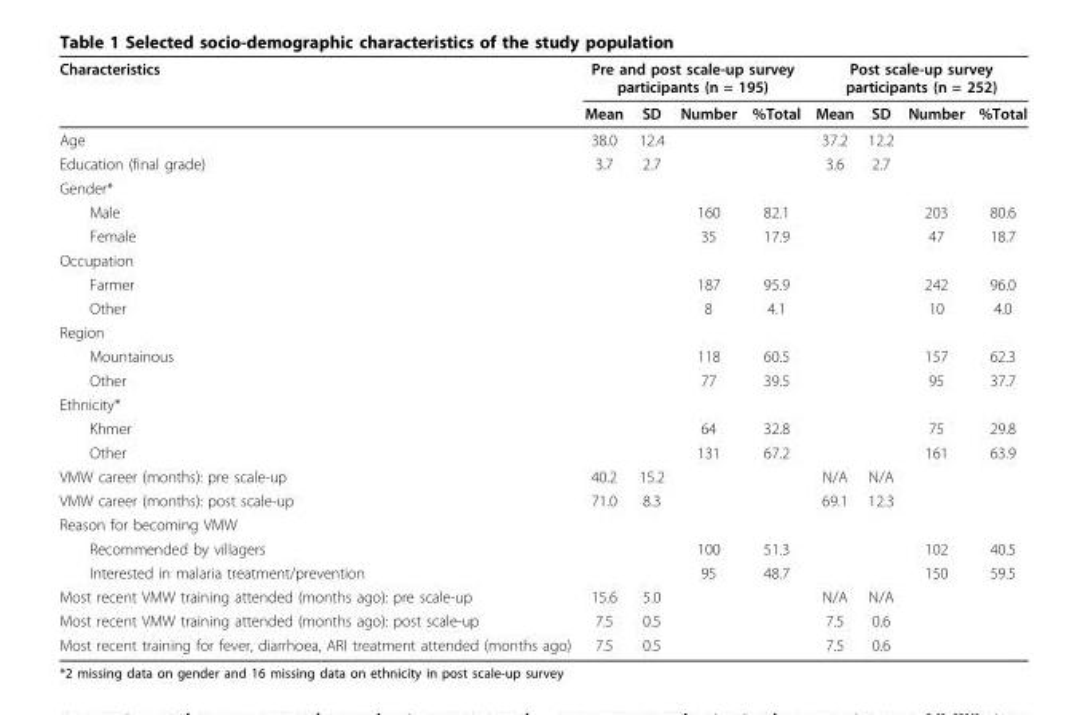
<table><thead><tr><td rowspan="2">Characteristics</td><td colspan="4">Pre and post scale-up survey participants (n = 195)</td><td colspan="4">Post scale-up survey participants (n = 252)</td></tr><tr><td>Mean</td><td>SD</td><td>Number</td><td>%Total</td><td>Mean</td><td>SD</td><td>Number</td><td>%Total</td></tr></thead><tbody><tr><td>Age</td><td>38.0</td><td>12.4</td><td></td><td></td><td>37.2</td><td>12.2</td><td></td><td></td></tr><tr><td>Education (final grade)</td><td>3.7</td><td>2.7</td><td></td><td></td><td>3.6</td><td>2.7</td><td></td><td></td></tr><tr><td colspan="9">Gender*</td></tr><tr><td>Male</td><td></td><td></td><td>160</td><td>82.1</td><td></td><td></td><td>203</td><td>80.6</td></tr><tr><td>Female</td><td></td><td></td><td>35</td><td>17.9</td><td></td><td></td><td>47</td><td>18.7</td></tr><tr><td colspan="9">Occupation</td></tr><tr><td>Farmer</td><td></td><td></td><td>187</td><td>95.9</td><td></td><td></td><td>242</td><td>96.0</td></tr><tr><td>Other</td><td></td><td></td><td>8</td><td>4.1</td><td></td><td></td><td>10</td><td>4.0</td></tr><tr><td colspan="9">Region</td></tr><tr><td>Mountainous</td><td></td><td></td><td>118</td><td>60.5</td><td></td><td></td><td>157</td><td>62.3</td></tr><tr><td>Other</td><td></td><td></td><td>77</td><td>39.5</td><td></td><td></td><td>95</td><td>37.7</td></tr><tr><td colspan="9">Ethnicity*</td></tr><tr><td>Khmer</td><td></td><td></td><td>64</td><td>32.8</td><td></td><td></td><td>75</td><td>29.8</td></tr><tr><td>Other</td><td></td><td></td><td>131</td><td>67.2</td><td></td><td></td><td>161</td><td>63.9</td></tr><tr><td>VMW career (months): pre scale-up</td><td>40.2</td><td>15.2</td><td></td><td></td><td>N/A</td><td>N/A</td><td></td><td></td></tr><tr><td>VMW career (months): post scale-up</td><td>71.0</td><td>8.3</td><td></td><td></td><td>69.1</td><td>12.3</td><td></td><td></td></tr><tr><td colspan="9">Reason for becoming VMW</td></tr><tr><td>Recommended by villagers</td><td></td><td></td><td>100</td><td>51.3</td><td></td><td></td><td>102</td><td>40.5</td></tr><tr><td>Interested in malaria treatment/prevention</td><td></td><td></td><td>95</td><td>48.7</td><td></td><td></td><td>150</td><td>59.5</td></tr><tr><td>Most recent VMW training attended (months ago): pre scale-up</td><td>15.6</td><td>5.0</td><td></td><td></td><td>N/A</td><td>N/A</td><td></td><td></td></tr><tr><td>Most recent VMW training attended (months ago): post scale-up</td><td>7.5</td><td>0.5</td><td></td><td></td><td>7.5</td><td>0.6</td><td></td><td></td></tr><tr><td>Most recent training for fever, diarrhoea, ARI treatment attended (months ago)</td><td>7.5</td><td>0.5</td><td></td><td></td><td>7.5</td><td>0.6</td><td></td><td></td></tr></tbody></table>